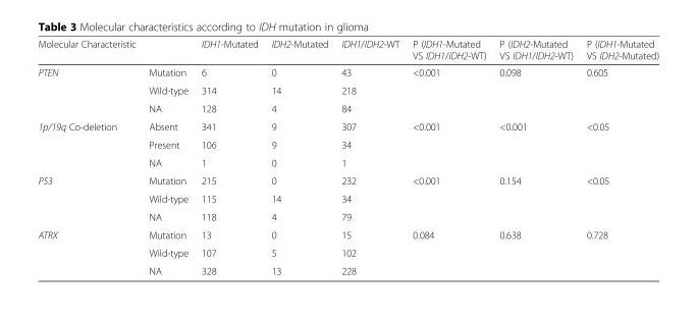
<table><thead><tr><td>Molecular Characteristic</td><td></td><td>IDH1-Mutated</td><td>IDH2-Mutated</td><td>IDH1/IDH2-WT</td><td>P (IDH1-Mutated VS IDH1/IDH2-WT)</td><td>P (IDH2-Mutated VS IDH1/IDH2-WT)</td><td>P (IDH1-Mutated VS IDH2-Mutated)</td></tr></thead><tbody><tr><td rowspan="3">PTEN</td><td>Mutation</td><td>6</td><td>0</td><td>43</td><td>&lt;0.001</td><td>0.098</td><td>0.605</td></tr><tr><td>Wild-type</td><td>314</td><td>14</td><td>218</td><td></td><td></td><td></td></tr><tr><td>NA</td><td>128</td><td>4</td><td>84</td><td></td><td></td><td></td></tr><tr><td rowspan="3">1p/19q Co-deletion</td><td>Absent</td><td>341</td><td>9</td><td>307</td><td>&lt;0.001</td><td>&lt;0.001</td><td>&lt;0.05</td></tr><tr><td>Present</td><td>106</td><td>9</td><td>34</td><td></td><td></td><td></td></tr><tr><td>NA</td><td>1</td><td>0</td><td>1</td><td></td><td></td><td></td></tr><tr><td rowspan="3">P53</td><td>Mutation</td><td>215</td><td>0</td><td>232</td><td>&lt;0.001</td><td>0.154</td><td>&lt;0.05</td></tr><tr><td>Wild-type</td><td>115</td><td>14</td><td>34</td><td></td><td></td><td></td></tr><tr><td>NA</td><td>118</td><td>4</td><td>79</td><td></td><td></td><td></td></tr><tr><td rowspan="3">ATRX</td><td>Mutation</td><td>13</td><td>0</td><td>15</td><td>0.084</td><td>0.638</td><td>0.728</td></tr><tr><td>Wild-type</td><td>107</td><td>5</td><td>102</td><td></td><td></td><td></td></tr><tr><td>NA</td><td>328</td><td>13</td><td>228</td><td></td><td></td><td></td></tr></tbody></table>